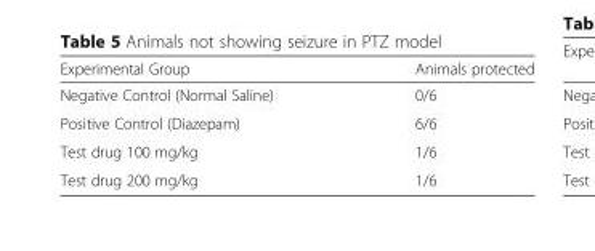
<table><thead><tr><td>Experimental Group</td><td>Animals protected</td></tr></thead><tbody><tr><td>Negative Control (Normal Saline)</td><td>0/6</td></tr><tr><td>Positive Control (Diazepam)</td><td>6/6</td></tr><tr><td>Test drug 100 mg/kg</td><td>1/6</td></tr><tr><td>Test drug 200 mg/kg</td><td>1/6</td></tr></tbody></table>